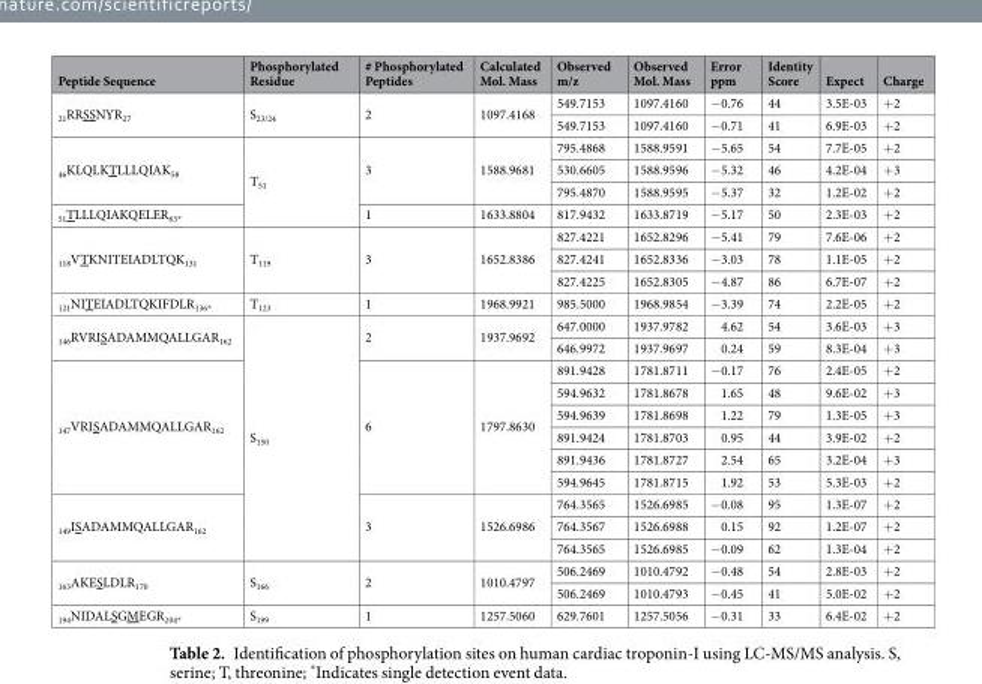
<table><thead><tr><td>Peptide Sequence</td><td>Phosphorylated Residue</td><td># Phosphorylated Peptides</td><td>Calculated Mol. Mass</td><td>Observed m/z</td><td>Observed Mol. Mass</td><td>Error ppm</td><td>Identity Score</td><td>Expect</td><td>Charge</td></tr></thead><tbody><tr><td rowspan="2"><sub>21</sub>RRSSNYR<sub>27</sub></td><td rowspan="2">S<sub>23/24</sub></td><td rowspan="2">2</td><td rowspan="2">1097.4168</td><td>549.7153</td><td>1097.4160</td><td>−0.76</td><td>44</td><td>3.5E-03</td><td>+2</td></tr><tr><td>549.7153</td><td>1097.4160</td><td>−0.71</td><td>41</td><td>6.9E-03</td><td>+2</td></tr><tr><td rowspan="3"><sub>46</sub>KLQLKTLLLQIAK<sub>58</sub></td><td rowspan="4">T<sub>51</sub></td><td rowspan="3">3</td><td rowspan="3">1588.9681</td><td>795.4868</td><td>1588.9591</td><td>−5.65</td><td>54</td><td>7.7E-05</td><td>+2</td></tr><tr><td>530.6605</td><td>1588.9596</td><td>−5.32</td><td>46</td><td>4.2E-04</td><td>+3</td></tr><tr><td>795.4870</td><td>1588.9595</td><td>−5.37</td><td>32</td><td>1.2E-02</td><td>+2</td></tr><tr><td><sub>51</sub>TLLLQIAKQELER<sub>63*</sub></td><td>1</td><td>1633.8804</td><td>817.9432</td><td>1633.8719</td><td>−5.17</td><td>50</td><td>2.3E-03</td><td>+2</td></tr><tr><td rowspan="3"><sub>118</sub>VTKNITEIADLTQK<sub>131</sub></td><td rowspan="3">T<sub>119</sub></td><td rowspan="3">3</td><td rowspan="3">1652.8386</td><td>827.4221</td><td>1652.8296</td><td>−5.41</td><td>79</td><td>7.6E-06</td><td>+2</td></tr><tr><td>827.4241</td><td>1652.8336</td><td>−3.03</td><td>78</td><td>1.1E-05</td><td>+2</td></tr><tr><td>827.4225</td><td>1652.8305</td><td>−4.87</td><td>86</td><td>6.7E-07</td><td>+2</td></tr><tr><td><sub>121</sub>NITEIADLTQKIFDLR<sub>136*</sub></td><td>T<sub>123</sub></td><td>1</td><td>1968.9921</td><td>985.5000</td><td>1968.9854</td><td>−3.39</td><td>74</td><td>2.2E-05</td><td>+2</td></tr><tr><td rowspan="2"><sub>146</sub>RVRISADAMMQALLGAR<sub>162</sub></td><td rowspan="11">S<sub>150</sub></td><td rowspan="2">2</td><td rowspan="2">1937.9692</td><td>647.0000</td><td>1937.9782</td><td>4.62</td><td>54</td><td>3.6E-03</td><td>+3</td></tr><tr><td>646.9972</td><td>1937.9697</td><td>0.24</td><td>59</td><td>8.3E-04</td><td>+3</td></tr><tr><td rowspan="6"><sub>147</sub>VRISADAMMQALLGAR<sub>162</sub></td><td rowspan="6">6</td><td rowspan="6">1797.8630</td><td>891.9428</td><td>1781.8711</td><td>−0.17</td><td>76</td><td>2.4E-05</td><td>+2</td></tr><tr><td>594.9632</td><td>1781.8678</td><td>1.65</td><td>48</td><td>9.6E-02</td><td>+3</td></tr><tr><td>594.9639</td><td>1781.8698</td><td>1.22</td><td>79</td><td>1.3E-05</td><td>+3</td></tr><tr><td>891.9424</td><td>1781.8703</td><td>0.95</td><td>44</td><td>3.9E-02</td><td>+2</td></tr><tr><td>891.9436</td><td>1781.8727</td><td>2.54</td><td>65</td><td>3.2E-04</td><td>+3</td></tr><tr><td>594.9645</td><td>1781.8715</td><td>1.92</td><td>53</td><td>5.3E-03</td><td>+2</td></tr><tr><td rowspan="3"><sub>149</sub>ISADAMMQALLGAR<sub>162</sub></td><td rowspan="3">3</td><td rowspan="3">1526.6986</td><td>764.3565</td><td>1526.6985</td><td>−0.08</td><td>95</td><td>1.3E-07</td><td>+2</td></tr><tr><td>764.3567</td><td>1526.6988</td><td>0.15</td><td>92</td><td>1.2E-07</td><td>+2</td></tr><tr><td>764.3565</td><td>1526.6985</td><td>−0.09</td><td>62</td><td>1.3E-04</td><td>+2</td></tr><tr><td rowspan="2"><sub>163</sub>AKESLDLR<sub>170</sub></td><td rowspan="2">S<sub>166</sub></td><td rowspan="2">2</td><td rowspan="2">1010.4797</td><td>506.2469</td><td>1010.4792</td><td>−0.48</td><td>54</td><td>2.8E-03</td><td>+2</td></tr><tr><td>506.2469</td><td>1010.4793</td><td>−0.45</td><td>41</td><td>5.0E-02</td><td>+2</td></tr><tr><td><sub>194</sub>NIDALSGMEGR<sub>204*</sub></td><td>S<sub>199</sub></td><td>1</td><td>1257.5060</td><td>629.7601</td><td>1257.5056</td><td>−0.31</td><td>33</td><td>6.4E-02</td><td>+2</td></tr></tbody></table>